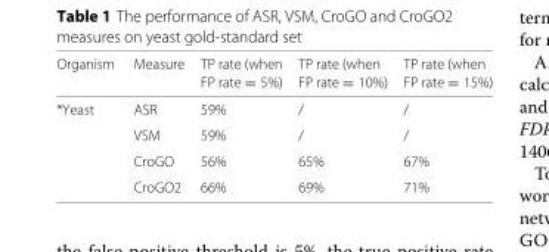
<table><thead><tr><td rowspan="2">Organism</td><td rowspan="2">Measure</td><td rowspan="2">TP rate (when FP rate = 5%)</td><td rowspan="2">TP rate (when FP rate = 10%)</td><td rowspan="2">TP rate (when FP rate = 15%)</td></tr><tr></tr></thead><tbody><tr><td rowspan="4">*Yeast</td><td>ASR</td><td>59%</td><td>/</td><td>/</td></tr><tr><td>VSM</td><td>59%</td><td>/</td><td>/</td></tr><tr><td>CroGO</td><td>56%</td><td>65%</td><td>67%</td></tr><tr><td>CroGO2</td><td>66%</td><td>69%</td><td>71%</td></tr></tbody></table>